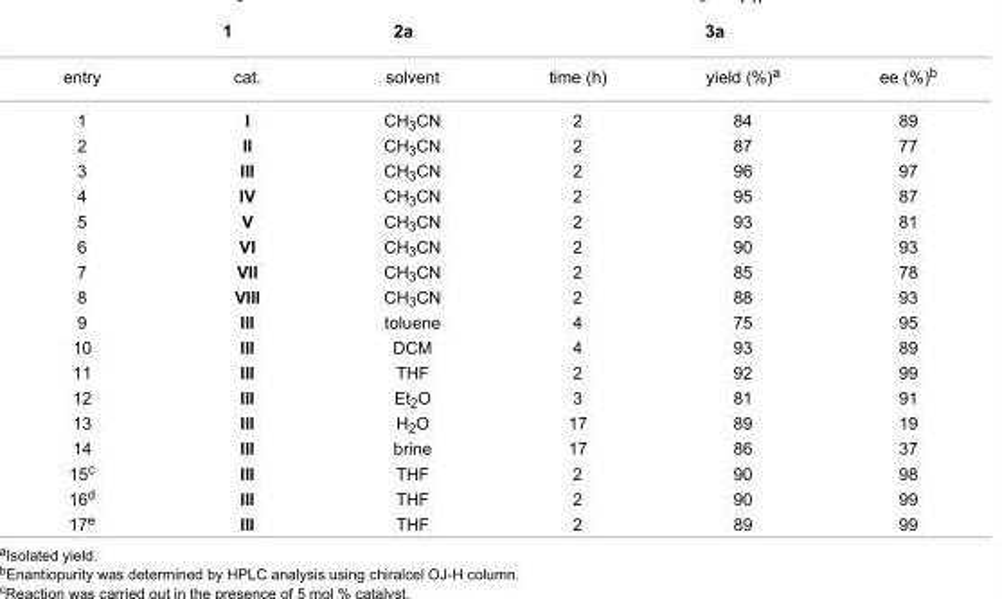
<table><tbody><tr><td>entry</td><td>cat.</td><td>solvent</td><td>time (h)</td><td>yield (%)<sup>a</sup></td><td>ee (%)<sup>b</sup></td></tr><tr><td>1</td><td>I</td><td>CH<sub>3</sub>CN</td><td>2</td><td>84</td><td>89</td></tr><tr><td>2</td><td>II</td><td>CH<sub>3</sub>CN</td><td>2</td><td>87</td><td>77</td></tr><tr><td>3</td><td>III</td><td>CH<sub>3</sub>CN</td><td>2</td><td>96</td><td>97</td></tr><tr><td>4</td><td>IV</td><td>CH<sub>3</sub>CN</td><td>2</td><td>95</td><td>87</td></tr><tr><td>5</td><td>V</td><td>CH<sub>3</sub>CN</td><td>2</td><td>93</td><td>81</td></tr><tr><td>6</td><td>VI</td><td>CH<sub>3</sub>CN</td><td>2</td><td>90</td><td>93</td></tr><tr><td>7</td><td>VII</td><td>CH<sub>3</sub>CN</td><td>2</td><td>85</td><td>78</td></tr><tr><td>8</td><td>VIII</td><td>CH<sub>3</sub>CN</td><td>2</td><td>88</td><td>93</td></tr><tr><td>9</td><td>III</td><td>toluene</td><td>4</td><td>75</td><td>95</td></tr><tr><td>10</td><td>III</td><td>DCM</td><td>4</td><td>93</td><td>89</td></tr><tr><td>11</td><td>III</td><td>THF</td><td>2</td><td>92</td><td>99</td></tr><tr><td>12</td><td>III</td><td>Et<sub>2</sub>O</td><td>3</td><td>81</td><td>91</td></tr><tr><td>13</td><td>III</td><td>H<sub>2</sub>O</td><td>17</td><td>89</td><td>19</td></tr><tr><td>14</td><td>III</td><td>brine</td><td>17</td><td>86</td><td>37</td></tr><tr><td>15<sup>c</sup></td><td>III</td><td>THF</td><td>2</td><td>90</td><td>98</td></tr><tr><td>16<sup>d</sup></td><td>III</td><td>THF</td><td>2</td><td>90</td><td>99</td></tr><tr><td>17<sup>e</sup></td><td>III</td><td>THF</td><td>2</td><td>89</td><td>99</td></tr></tbody></table>